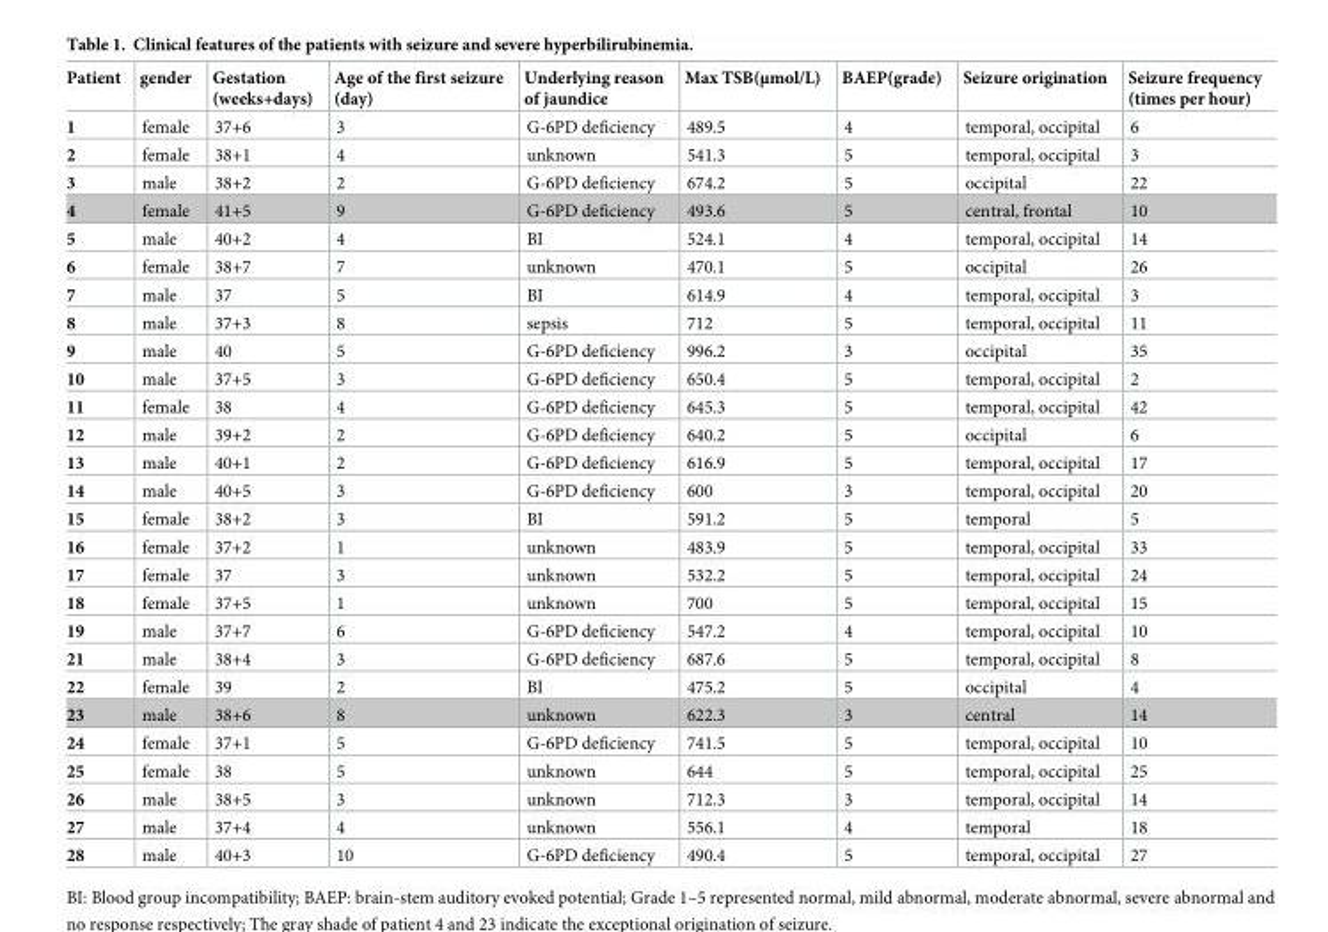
<table><thead><tr><td>Patient</td><td>gender</td><td>Gestation (weeks+days)</td><td>Age of the first seizure (day)</td><td>Underlying reason of jaundice</td><td>Max TSB(μmol/L)</td><td>BAEP(grade)</td><td>Seizure origination</td><td>Seizure frequency (times per hour)</td></tr></thead><tbody><tr><td>1</td><td>female</td><td>37+6</td><td>3</td><td>G-6PD deficiency</td><td>489.5</td><td>4</td><td>temporal, occipital</td><td>6</td></tr><tr><td>2</td><td>female</td><td>38+1</td><td>4</td><td>unknown</td><td>541.3</td><td>5</td><td>temporal, occipital</td><td>3</td></tr><tr><td>3</td><td>male</td><td>38+2</td><td>2</td><td>G-6PD deficiency</td><td>674.2</td><td>5</td><td>occipital</td><td>22</td></tr><tr><td>4</td><td>female</td><td>41+5</td><td>9</td><td>G-6PD deficiency</td><td>493.6</td><td>5</td><td>central, frontal</td><td>10</td></tr><tr><td>5</td><td>male</td><td>40+2</td><td>4</td><td>BI</td><td>524.1</td><td>4</td><td>temporal, occipital</td><td>14</td></tr><tr><td>6</td><td>female</td><td>38+7</td><td>7</td><td>unknown</td><td>470.1</td><td>5</td><td>occipital</td><td>26</td></tr><tr><td>7</td><td>male</td><td>37</td><td>5</td><td>BI</td><td>614.9</td><td>4</td><td>temporal, occipital</td><td>3</td></tr><tr><td>8</td><td>male</td><td>37+3</td><td>8</td><td>sepsis</td><td>712</td><td>5</td><td>temporal, occipital</td><td>11</td></tr><tr><td>9</td><td>male</td><td>40</td><td>5</td><td>G-6PD deficiency</td><td>996.2</td><td>3</td><td>occipital</td><td>35</td></tr><tr><td>10</td><td>male</td><td>37+5</td><td>3</td><td>G-6PD deficiency</td><td>650.4</td><td>5</td><td>temporal, occipital</td><td>2</td></tr><tr><td>11</td><td>female</td><td>38</td><td>4</td><td>G-6PD deficiency</td><td>645.3</td><td>5</td><td>temporal, occipital</td><td>42</td></tr><tr><td>12</td><td>male</td><td>39+2</td><td>2</td><td>G-6PD deficiency</td><td>640.2</td><td>5</td><td>occipital</td><td>6</td></tr><tr><td>13</td><td>male</td><td>40+1</td><td>2</td><td>G-6PD deficiency</td><td>616.9</td><td>5</td><td>temporal, occipital</td><td>17</td></tr><tr><td>14</td><td>male</td><td>40+5</td><td>3</td><td>G-6PD deficiency</td><td>600</td><td>3</td><td>temporal, occipital</td><td>20</td></tr><tr><td>15</td><td>female</td><td>38+2</td><td>3</td><td>BI</td><td>591.2</td><td>5</td><td>temporal</td><td>5</td></tr><tr><td>16</td><td>female</td><td>37+2</td><td>1</td><td>unknown</td><td>483.9</td><td>5</td><td>temporal, occipital</td><td>33</td></tr><tr><td>17</td><td>female</td><td>37</td><td>3</td><td>unknown</td><td>532.2</td><td>5</td><td>temporal, occipital</td><td>24</td></tr><tr><td>18</td><td>female</td><td>37+5</td><td>1</td><td>unknown</td><td>700</td><td>5</td><td>temporal, occipital</td><td>15</td></tr><tr><td>19</td><td>male</td><td>37+7</td><td>6</td><td>G-6PD deficiency</td><td>547.2</td><td>4</td><td>temporal, occipital</td><td>10</td></tr><tr><td>21</td><td>male</td><td>38+4</td><td>3</td><td>G-6PD deficiency</td><td>687.6</td><td>5</td><td>temporal, occipital</td><td>8</td></tr><tr><td>22</td><td>female</td><td>39</td><td>2</td><td>BI</td><td>475.2</td><td>5</td><td>occipital</td><td>4</td></tr><tr><td>23</td><td>male</td><td>38+6</td><td>8</td><td>unknown</td><td>622.3</td><td>3</td><td>central</td><td>14</td></tr><tr><td>24</td><td>female</td><td>37+1</td><td>5</td><td>G-6PD deficiency</td><td>741.5</td><td>5</td><td>temporal, occipital</td><td>10</td></tr><tr><td>25</td><td>female</td><td>38</td><td>5</td><td>unknown</td><td>644</td><td>5</td><td>temporal, occipital</td><td>25</td></tr><tr><td>26</td><td>male</td><td>38+5</td><td>3</td><td>unknown</td><td>712.3</td><td>3</td><td>temporal, occipital</td><td>14</td></tr><tr><td>27</td><td>male</td><td>37+4</td><td>4</td><td>unknown</td><td>556.1</td><td>4</td><td>temporal</td><td>18</td></tr><tr><td>28</td><td>male</td><td>40+3</td><td>10</td><td>G-6PD deficiency</td><td>490.4</td><td>5</td><td>temporal, occipital</td><td>27</td></tr></tbody></table>